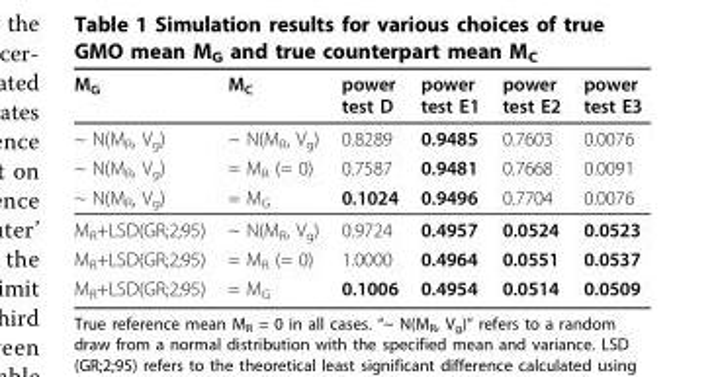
<table><thead><tr><td>M<sub>G</sub></td><td>M<sub>C</sub></td><td>power test D</td><td>power test E1</td><td>power test E2</td><td>power test E3</td></tr></thead><tbody><tr><td>~ N(M<sub>R</sub>, V<sub>g</sub>)</td><td>~ N(M<sub>R</sub>, V<sub>g</sub>)</td><td>0.8289</td><td>0.9485</td><td>0.7603</td><td>0.0076</td></tr><tr><td>~ N(M<sub>R</sub>, V<sub>g</sub>)</td><td>= M<sub>R</sub> (= 0)</td><td>0.7587</td><td>0.9481</td><td>0.7668</td><td>0.0091</td></tr><tr><td>~ N(M<sub>R</sub>, V<sub>g</sub>)</td><td>= M<sub>G</sub></td><td>0.1024</td><td>0.9496</td><td>0.7704</td><td>0.0076</td></tr><tr><td>M<sub>R</sub>+LSD(GR;2;95)</td><td>~ N(M<sub>R</sub>, V<sub>g</sub>)</td><td>0.9724</td><td>0.4957</td><td>0.0524</td><td>0.0523</td></tr><tr><td>M<sub>R</sub>+LSD(GR;2;95)</td><td>= M<sub>R</sub> (= 0)</td><td>1.0000</td><td>0.4964</td><td>0.0551</td><td>0.0537</td></tr><tr><td>M<sub>R</sub>+LSD(GR;2;95)</td><td>= M<sub>G</sub></td><td>0.1006</td><td>0.4954</td><td>0.0514</td><td>0.0509</td></tr></tbody></table>